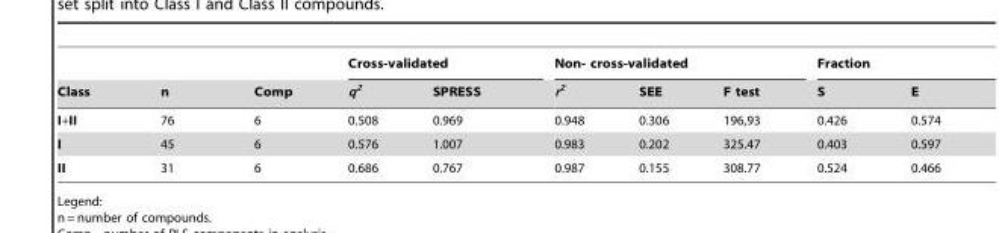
<table><thead><tr><td rowspan="2">Class</td><td rowspan="2">n</td><td rowspan="2">Comp</td><td colspan="2">Cross-validated</td><td colspan="3">Non- cross-validated</td><td colspan="2">Fraction</td></tr><tr><td>q<sup>2</sup></td><td>SPRESS</td><td>r<sup>2</sup></td><td>SEE</td><td>F test</td><td>S</td><td>E</td></tr></thead><tbody><tr><td>I+II</td><td>76</td><td>6</td><td>0.508</td><td>0.969</td><td>0.948</td><td>0.306</td><td>196,93</td><td>0.426</td><td>0.574</td></tr><tr><td>I</td><td>45</td><td>6</td><td>0.576</td><td>1.007</td><td>0.983</td><td>0.202</td><td>325.47</td><td>0.403</td><td>0.597</td></tr><tr><td>II</td><td>31</td><td>6</td><td>0.686</td><td>0.767</td><td>0.987</td><td>0.155</td><td>308.77</td><td>0.524</td><td>0.466</td></tr></tbody></table>